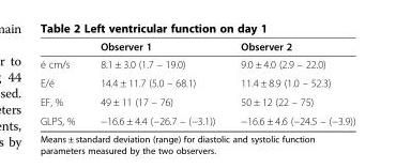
<table><thead><tr><td></td><td>Observer 1</td><td>Observer 2</td></tr></thead><tbody><tr><td>é cm/s</td><td>8.1 ± 3.0 (1.7 – 19.0)</td><td>9.0 ± 4.0 (2.9 – 22.0)</td></tr><tr><td>E/é</td><td>14.4 ± 11.7 (5.0 – 68.1)</td><td>11.4 ± 8.9 (1.0 – 52.3)</td></tr><tr><td>EF, %</td><td>49 ± 11 (17 – 76)</td><td>50 ± 12 (22 – 75)</td></tr><tr><td>GLPS, %</td><td>−16.6 ± 4.4 (−26.7 – (−3.1))</td><td>−16.6 ± 4.6 (−24.5 – (−3.9))</td></tr></tbody></table>